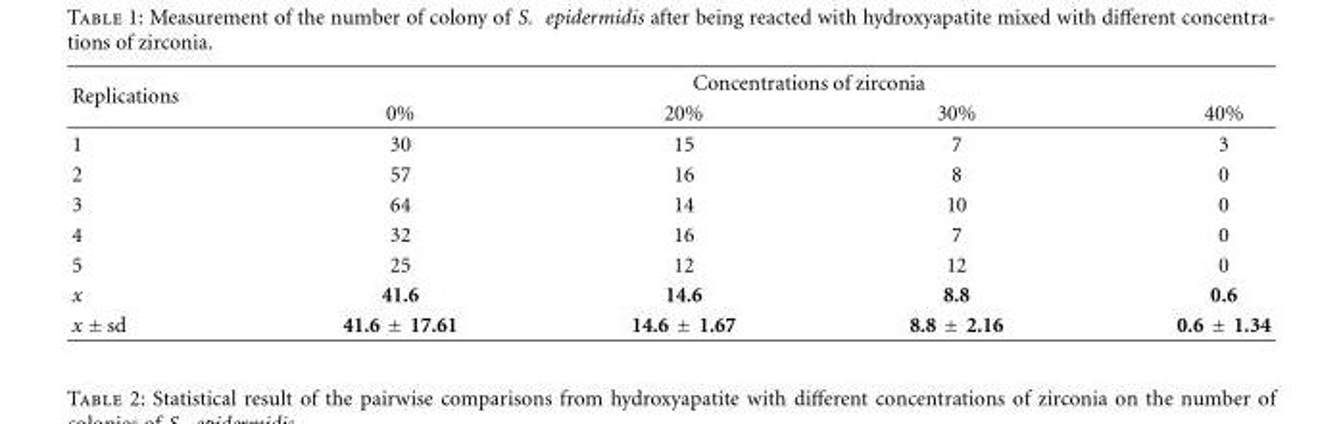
<table><thead><tr><td rowspan="2">Replications</td><td colspan="4">Concentrations of zirconia</td></tr><tr><td>0%</td><td>20%</td><td>30%</td><td>40%</td></tr></thead><tbody><tr><td>1</td><td>30</td><td>15</td><td>7</td><td>3</td></tr><tr><td>2</td><td>57</td><td>16</td><td>8</td><td>0</td></tr><tr><td>3</td><td>64</td><td>14</td><td>10</td><td>0</td></tr><tr><td>4</td><td>32</td><td>16</td><td>7</td><td>0</td></tr><tr><td>5</td><td>25</td><td>12</td><td>12</td><td>0</td></tr><tr><td>x</td><td>41.6</td><td>14.6</td><td>8.8</td><td>0.6</td></tr><tr><td>x ± sd</td><td>41.6 ± 17.61</td><td>14.6 ± 1.67</td><td>8.8 ± 2.16</td><td>0.6 ± 1.34</td></tr></tbody></table>